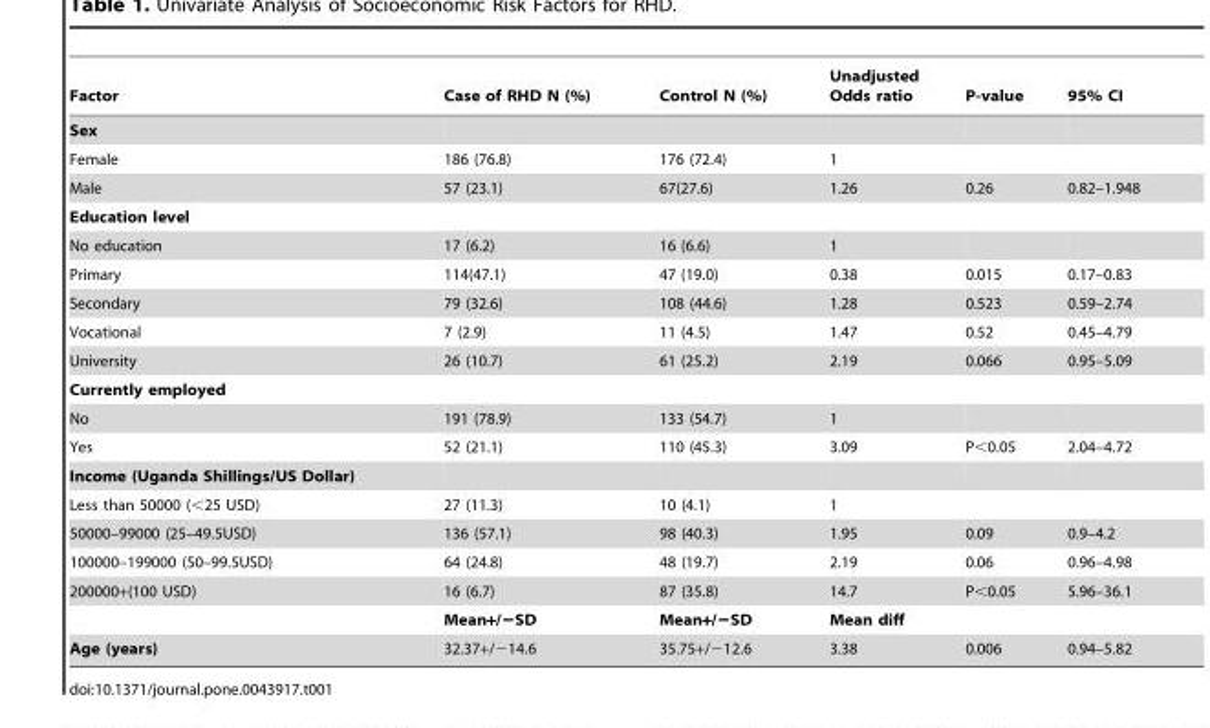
<table><thead><tr><td>Factor</td><td>Case of RHD N (%)</td><td>Control N (%)</td><td>Unadjusted Odds ratio</td><td>P-value</td><td>95% CI</td></tr></thead><tbody><tr><td colspan="6">Sex</td></tr><tr><td>Female</td><td>186 (76.8)</td><td>176 (72.4)</td><td>1</td><td></td><td></td></tr><tr><td>Male</td><td>57 (23.1)</td><td>67(27.6)</td><td>1.26</td><td>0.26</td><td>0.82–1.948</td></tr><tr><td colspan="6">Education level</td></tr><tr><td>No education</td><td>17 (6.2)</td><td>16 (6.6)</td><td>1</td><td></td><td></td></tr><tr><td>Primary</td><td>114(47.1)</td><td>47 (19.0)</td><td>0.38</td><td>0.015</td><td>0.17–0.83</td></tr><tr><td>Secondary</td><td>79 (32.6)</td><td>108 (44.6)</td><td>1.28</td><td>0.523</td><td>0.59–2.74</td></tr><tr><td>Vocational</td><td>7 (2.9)</td><td>11 (4.5)</td><td>1.47</td><td>0.52</td><td>0.45–4.79</td></tr><tr><td>University</td><td>26 (10.7)</td><td>61 (25.2)</td><td>2.19</td><td>0.066</td><td>0.95–5.09</td></tr><tr><td colspan="6">Currently employed</td></tr><tr><td>No</td><td>191 (78.9)</td><td>133 (54.7)</td><td>1</td><td></td><td></td></tr><tr><td>Yes</td><td>52 (21.1)</td><td>110 (45.3)</td><td>3.09</td><td>P&lt;0.05</td><td>2.04–4.72</td></tr><tr><td colspan="6">Income (Uganda Shillings/US Dollar)</td></tr><tr><td>Less than 50000 (&lt;25 USD)</td><td>27 (11.3)</td><td>10 (4.1)</td><td>1</td><td></td><td></td></tr><tr><td>50000–99000 (25–49.5USD)</td><td>136 (57.1)</td><td>98 (40.3)</td><td>1.95</td><td>0.09</td><td>0.9–4.2</td></tr><tr><td>100000–199000 (50–99.5USD)</td><td>64 (24.8)</td><td>48 (19.7)</td><td>2.19</td><td>0.06</td><td>0.96–4.98</td></tr><tr><td rowspan="2">200000+(100 USD)</td><td>16 (6.7)</td><td>87 (35.8)</td><td>14.7</td><td>P&lt;0.05</td><td>5.96–36.1</td></tr><tr><td>Mean+/−SD</td><td>Mean+/−SD</td><td>Mean diff</td><td></td><td></td></tr><tr><td>Age (years)</td><td>32.37+/−14.6</td><td>35.75+/−12.6</td><td>3.38</td><td>0.006</td><td>0.94–5.82</td></tr></tbody></table>